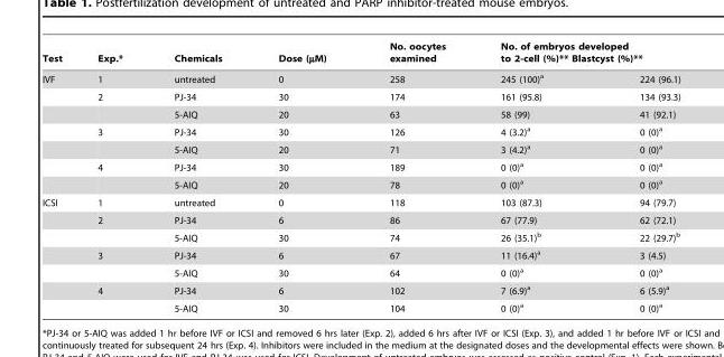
<table><thead><tr><td rowspan="2">Test IVF</td><td rowspan="2">Exp.* 1</td><td rowspan="2">Chemicals untreated</td><td rowspan="2">Dose (µM) 0</td><td rowspan="2">No. oocytes examined 258</td><td colspan="2">No. of embryos developed to 2-cell (%)** Blastcyst (%)**</td></tr><tr><td>245 (100)<sup>a</sup></td><td>224 (96.1)</td></tr></thead><tbody><tr><td></td><td>2</td><td>PJ-34</td><td>30</td><td>174</td><td>161 (95.8)</td><td>134 (93.3)</td></tr><tr><td></td><td></td><td>5-AIQ</td><td>20</td><td>63</td><td>58 (99)</td><td>41 (92.1)</td></tr><tr><td></td><td>3</td><td>PJ-34</td><td>30</td><td>126</td><td>4 (3.2)<sup>a</sup></td><td>0 (0)<sup>a</sup></td></tr><tr><td></td><td></td><td>5-AIQ</td><td>20</td><td>71</td><td>3 (4.2)<sup>a</sup></td><td>0 (0)<sup>a</sup></td></tr><tr><td></td><td>4</td><td>PJ-34</td><td>30</td><td>189</td><td>0 (0)<sup>a</sup></td><td>0 (0)<sup>a</sup></td></tr><tr><td></td><td></td><td>5-AIQ</td><td>20</td><td>78</td><td>0 (0)<sup>a</sup></td><td>0 (0)<sup>a</sup></td></tr><tr><td rowspan="7">ICSI</td><td>1</td><td>untreated</td><td>0</td><td>118</td><td>103 (87.3)</td><td>94 (79.7)</td></tr><tr><td>2</td><td>PJ-34</td><td>6</td><td>86</td><td>67 (77.9)</td><td>62 (72.1)</td></tr><tr><td></td><td>5-AIQ</td><td>30</td><td>74</td><td>26 (35.1)<sup>b</sup></td><td>22 (29.7)<sup>b</sup></td></tr><tr><td>3</td><td>PJ-34</td><td>6</td><td>67</td><td>11 (16.4)<sup>a</sup></td><td>3 (4.5)</td></tr><tr><td></td><td>5-AIQ</td><td>30</td><td>64</td><td>0 (0)<sup>a</sup></td><td>0 (0)<sup>a</sup></td></tr><tr><td>4</td><td>PJ-34</td><td>6</td><td>102</td><td>7 (6.9)<sup>a</sup></td><td>6 (5.9)<sup>a</sup></td></tr><tr><td></td><td>5-AIQ</td><td>30</td><td>104</td><td>0 (0)<sup>a</sup></td><td>0 (0)<sup>a</sup></td></tr></tbody></table>